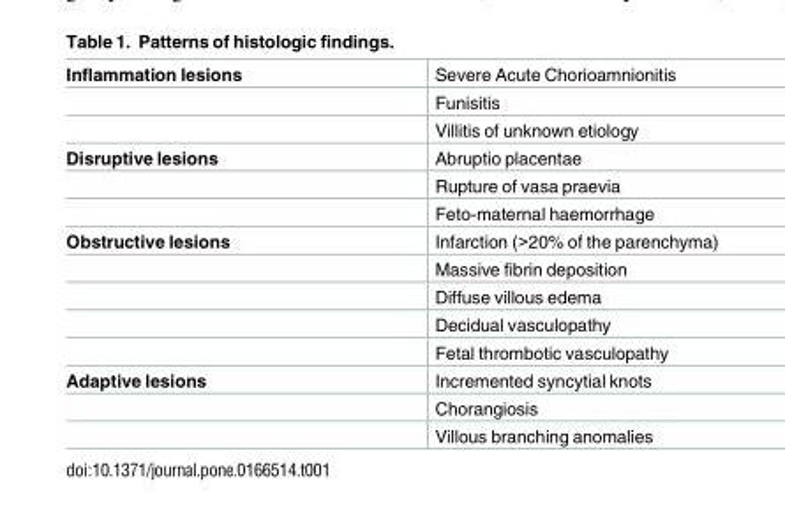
<table><tbody><tr><td rowspan="3">Inflammation lesions</td><td>Severe Acute Chorioamnionitis</td></tr><tr><td>Funisitis</td></tr><tr><td>Villitis of unknown etiology</td></tr><tr><td rowspan="3">Disruptive lesions</td><td>Abruptio placentae</td></tr><tr><td>Rupture of vasa praevia</td></tr><tr><td>Feto-maternal haemorrhage</td></tr><tr><td rowspan="5">Obstructive lesions</td><td>Infarction (&gt;20% of the parenchyma)</td></tr><tr><td>Massive fibrin deposition</td></tr><tr><td>Diffuse villous edema</td></tr><tr><td>Decidual vasculopathy</td></tr><tr><td>Fetal thrombotic vasculopathy</td></tr><tr><td rowspan="3">Adaptive lesions</td><td>Incremented syncytial knots</td></tr><tr><td>Chorangiosis</td></tr><tr><td>Villous branching anomalies</td></tr></tbody></table>